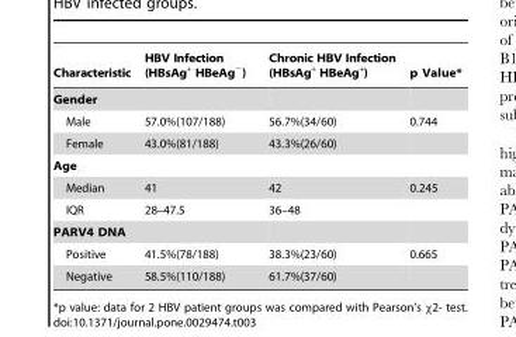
<table><thead><tr><td>Characteristic</td><td>HBV Infection (HBsAg<sup>+</sup> HBeAg<sup>−</sup>)</td><td>Chronic HBV Infection (HBsAg<sup>+</sup> HBeAg<sup>+</sup>)</td><td>p Value*</td></tr></thead><tbody><tr><td colspan="4">Gender</td></tr><tr><td>Male</td><td>57.0%(107/188)</td><td>56.7%(34/60)</td><td>0.744</td></tr><tr><td>Female</td><td>43.0%(81/188)</td><td>43.3%(26/60)</td><td></td></tr><tr><td colspan="4">Age</td></tr><tr><td>Median</td><td>41</td><td>42</td><td>0.245</td></tr><tr><td>IQR</td><td>28–47.5</td><td>36–48</td><td></td></tr><tr><td colspan="4">PARV4 DNA</td></tr><tr><td>Positive</td><td>41.5%(78/188)</td><td>38.3%(23/60)</td><td>0.665</td></tr><tr><td>Negative</td><td>58.5%(110/188)</td><td>61.7%(37/60)</td><td></td></tr></tbody></table>